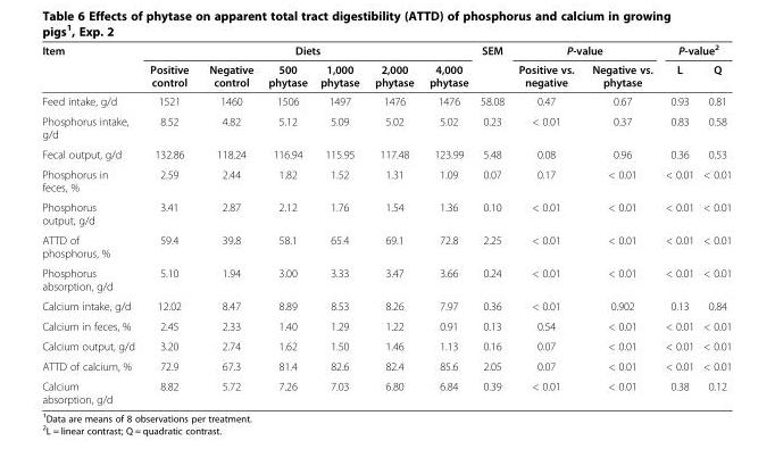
<table><thead><tr><td rowspan="2">Item</td><td colspan="6">Diets</td><td rowspan="2">SEM</td><td colspan="2">P-value</td><td colspan="2">P-value<sup>2</sup></td></tr><tr><td>Positive control</td><td>Negative control</td><td>500 phytase</td><td>1,000 phytase</td><td>2,000 phytase</td><td>4,000 phytase</td><td>Positive vs. negative</td><td>Negative vs. phytase</td><td>L</td><td>Q</td></tr></thead><tbody><tr><td>Feed intake, g/d</td><td>1521</td><td>1460</td><td>1506</td><td>1497</td><td>1476</td><td>1476</td><td>58.08</td><td>0.47</td><td>0.67</td><td>0.93</td><td>0.81</td></tr><tr><td>Phosphorus intake, g/d</td><td>8.52</td><td>4.82</td><td>5.12</td><td>5.09</td><td>5.02</td><td>5.02</td><td>0.23</td><td>&lt; 0.01</td><td>0.37</td><td>0.83</td><td>0.58</td></tr><tr><td>Fecal output, g/d</td><td>132.86</td><td>118.24</td><td>116.94</td><td>115.95</td><td>117.48</td><td>123.99</td><td>5.48</td><td>0.08</td><td>0.96</td><td>0.36</td><td>0.53</td></tr><tr><td>Phosphorus in feces, %</td><td>2.59</td><td>2.44</td><td>1.82</td><td>1.52</td><td>1.31</td><td>1.09</td><td>0.07</td><td>0.17</td><td>&lt; 0.01</td><td>&lt; 0.01</td><td>&lt; 0.01</td></tr><tr><td>Phosphorus output, g/d</td><td>3.41</td><td>2.87</td><td>2.12</td><td>1.76</td><td>1.54</td><td>1.36</td><td>0.10</td><td>&lt; 0.01</td><td>&lt; 0.01</td><td>&lt; 0.01</td><td>&lt; 0.01</td></tr><tr><td>ATTD of phosphorus, %</td><td>59.4</td><td>39.8</td><td>58.1</td><td>65.4</td><td>69.1</td><td>72.8</td><td>2.25</td><td>&lt; 0.01</td><td>&lt; 0.01</td><td>&lt; 0.01</td><td>&lt; 0.01</td></tr><tr><td>Phosphorus absorption, g/d</td><td>5.10</td><td>1.94</td><td>3.00</td><td>3.33</td><td>3.47</td><td>3.66</td><td>0.24</td><td>&lt; 0.01</td><td>&lt; 0.01</td><td>&lt; 0.01</td><td>&lt; 0.01</td></tr><tr><td>Calcium intake, g/d</td><td>12.02</td><td>8.47</td><td>8.89</td><td>8.53</td><td>8.26</td><td>7.97</td><td>0.36</td><td>&lt; 0.01</td><td>0.902</td><td>0.13</td><td>0.84</td></tr><tr><td>Calcium in feces, %</td><td>2.45</td><td>2.33</td><td>1.40</td><td>1.29</td><td>1.22</td><td>0.91</td><td>0.13</td><td>0.54</td><td>&lt; 0.01</td><td>&lt; 0.01</td><td>&lt; 0.01</td></tr><tr><td>Calcium output, g/d</td><td>3.20</td><td>2.74</td><td>1.62</td><td>1.50</td><td>1.46</td><td>1.13</td><td>0.16</td><td>0.07</td><td>&lt; 0.01</td><td>&lt; 0.01</td><td>&lt; 0.01</td></tr><tr><td>ATTD of calcium, %</td><td>72.9</td><td>67.3</td><td>81.4</td><td>82.6</td><td>82.4</td><td>85.6</td><td>2.05</td><td>0.07</td><td>&lt; 0.01</td><td>&lt; 0.01</td><td>&lt; 0.01</td></tr><tr><td>Calcium absorption, g/d</td><td>8.82</td><td>5.72</td><td>7.26</td><td>7.03</td><td>6.80</td><td>6.84</td><td>0.39</td><td>&lt; 0.01</td><td>&lt; 0.01</td><td>0.38</td><td>0.12</td></tr></tbody></table>